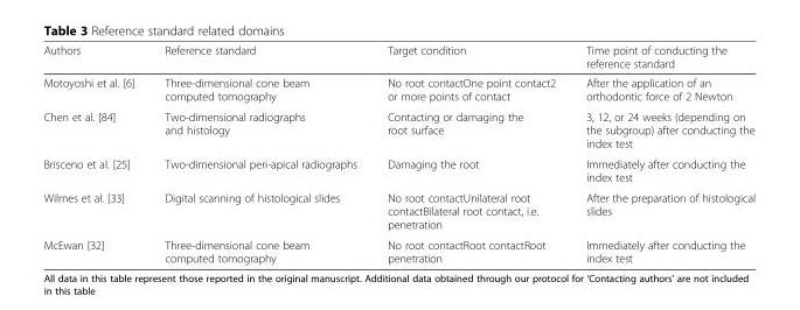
<table><thead><tr><td>Authors</td><td>Reference standard</td><td>Target condition</td><td>Time point of conducting the reference standard</td></tr></thead><tbody><tr><td>Motoyoshi et al. [6]</td><td>Three-dimensional cone beam computed tomography</td><td>No root contactOne point contact2 or more points of contact</td><td>After the application of an orthodontic force of 2 Newton</td></tr><tr><td>Chen et al. [84]</td><td>Two-dimensional radiographs and histology</td><td>Contacting or damaging the root surface</td><td>3, 12, or 24 weeks (depending on the subgroup) after conducting the index test</td></tr><tr><td>Brisceno et al. [25]</td><td>Two-dimensional peri-apical radiographs</td><td>Damaging the root</td><td>Immediately after conducting the index test</td></tr><tr><td>Wilmes et al. [33]</td><td>Digital scanning of histological slides</td><td>No root contactUnilateral root contactBilateral root contact, i.e. penetration</td><td>After the preparation of histological slides</td></tr><tr><td>McEwan [32]</td><td>Three-dimensional cone beam computed tomography</td><td>No root contactRoot contactRoot penetration</td><td>Immediately after conducting the index test</td></tr></tbody></table>